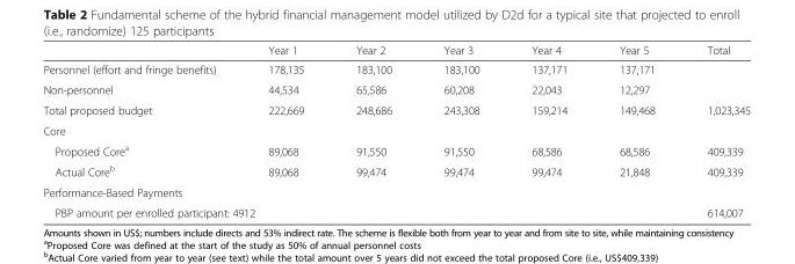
<table><thead><tr><td></td><td>Year 1</td><td>Year 2</td><td>Year 3</td><td>Year 4</td><td>Year 5</td><td>Total</td></tr></thead><tbody><tr><td>Personnel (effort and fringe benefits)</td><td>178,135</td><td>183,100</td><td>183,100</td><td>137,171</td><td>137,171</td><td></td></tr><tr><td>Non-personnel</td><td>44,534</td><td>65,586</td><td>60,208</td><td>22,043</td><td>12,297</td><td></td></tr><tr><td>Total proposed budget</td><td>222,669</td><td>248,686</td><td>243,308</td><td>159,214</td><td>149,468</td><td>1,023,345</td></tr><tr><td colspan="7">Core</td></tr><tr><td>Proposed Core<sup>a</sup></td><td>89,068</td><td>91,550</td><td>91,550</td><td>68,586</td><td>68,586</td><td>409,339</td></tr><tr><td>Actual Core<sup>b</sup></td><td>89,068</td><td>99,474</td><td>99,474</td><td>99,474</td><td>21,848</td><td>409,339</td></tr><tr><td colspan="7">Performance-Based Payments</td></tr><tr><td colspan="6">PBP amount per enrolled participant: 4912</td><td>614,007</td></tr></tbody></table>